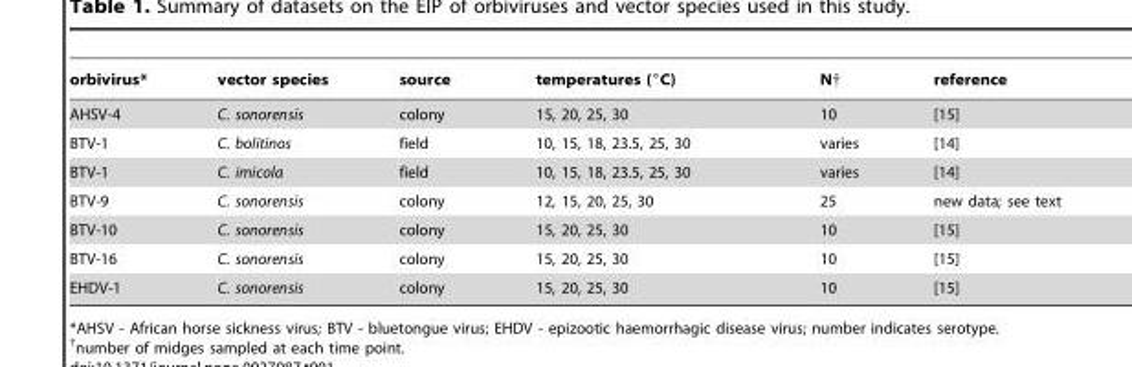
<table><thead><tr><td>orbivirus*</td><td>vector species</td><td>source</td><td>temperatures (°C)</td><td>N†</td><td>reference</td></tr></thead><tbody><tr><td>AHSV-4</td><td>C. sonorensis</td><td>colony</td><td>15, 20, 25, 30</td><td>10</td><td>[15]</td></tr><tr><td>BTV-1</td><td>C. bolitinos</td><td>field</td><td>10, 15, 18, 23.5, 25, 30</td><td>varies</td><td>[14]</td></tr><tr><td>BTV-1</td><td>C. imicola</td><td>field</td><td>10, 15, 18, 23.5, 25, 30</td><td>varies</td><td>[14]</td></tr><tr><td>BTV-9</td><td>C. sonorensis</td><td>colony</td><td>12, 15, 20, 25, 30</td><td>25</td><td>new data; see text</td></tr><tr><td>BTV-10</td><td>C. sonorensis</td><td>colony</td><td>15, 20, 25, 30</td><td>10</td><td>[15]</td></tr><tr><td>BTV-16</td><td>C. sonorensis</td><td>colony</td><td>15, 20, 25, 30</td><td>10</td><td>[15]</td></tr><tr><td>EHDV-1</td><td>C. sonorensis</td><td>colony</td><td>15, 20, 25, 30</td><td>10</td><td>[15]</td></tr></tbody></table>